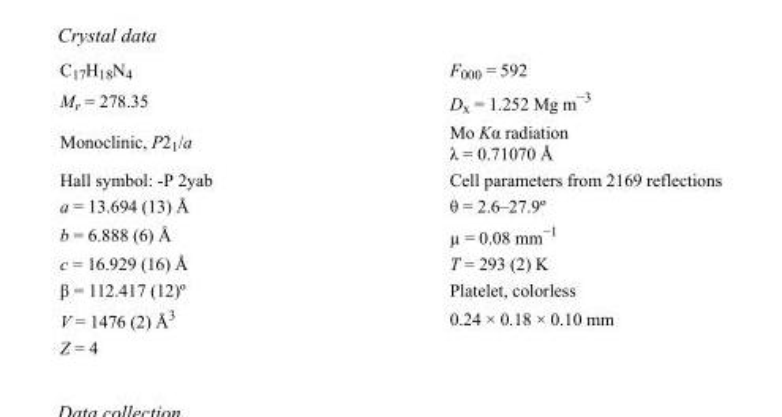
<table><tbody><tr><td>C<sub>17</sub>H<sub>18</sub>N<sub>4</sub></td><td>F<sub>000</sub> = 592</td></tr><tr><td>M<sub>r</sub> = 278.35</td><td>D<sub>x</sub> = 1.252 Mg m<sup>−3</sup></td></tr><tr><td>Monoclinic, P2<sub>1</sub>/a</td><td>Mo Kα radiation λ = 0.71070 Å</td></tr><tr><td>Hall symbol: -P 2yab</td><td>Cell parameters from 2169 reflections</td></tr><tr><td>a = 13.694 (13) Å</td><td>θ = 2.6–27.9º</td></tr><tr><td>b = 6.888 (6) Å</td><td>µ = 0.08 mm<sup>−1</sup></td></tr><tr><td>c = 16.929 (16) Å</td><td>T = 293 (2) K</td></tr><tr><td>β = 112.417 (12)º</td><td>Platelet, colorless</td></tr><tr><td>V = 1476 (2) Å<sup>3</sup></td><td>0.24 × 0.18 × 0.10 mm</td></tr><tr><td>Z = 4</td><td></td></tr></tbody></table>